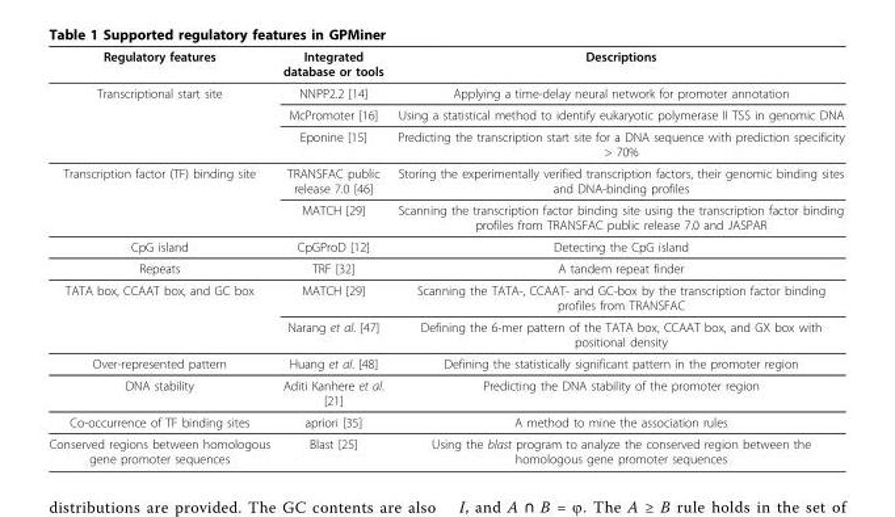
<table><thead><tr><td>Regulatory features</td><td>Integrated database or tools</td><td>Descriptions</td></tr></thead><tbody><tr><td rowspan="3">Transcriptional start site</td><td>NNPP2.2 [14]</td><td>Applying a time-delay neural network for promoter annotation</td></tr><tr><td>McPromoter [16]</td><td>Using a statistical method to identify eukaryotic polymerase II TSS in genomic DNA</td></tr><tr><td>Eponine [15]</td><td>Predicting the transcription start site for a DNA sequence with prediction specificity &gt; 70%</td></tr><tr><td rowspan="2">Transcription factor (TF) binding site</td><td>TRANSFAC public release 7.0 [46]</td><td>Storing the experimentally verified transcription factors, their genomic binding sites and DNA-binding profiles</td></tr><tr><td>MATCH [29]</td><td>Scanning the transcription factor binding site using the transcription factor binding profiles from TRANSFAC public release 7.0 and JASPAR</td></tr><tr><td>CpG island</td><td>CpGProD [12]</td><td>Detecting the CpG island</td></tr><tr><td>Repeats</td><td>TRF [32]</td><td>A tandem repeat finder</td></tr><tr><td rowspan="2">TATA box, CCAAT box, and GC box</td><td>MATCH [29]</td><td>Scanning the TATA-, CCAAT- and GC-box by the transcription factor binding profiles from TRANSFAC</td></tr><tr><td>Narang et al. [47]</td><td>Defining the 6-mer pattern of the TATA box, CCAAT box, and GX box with positional density</td></tr><tr><td>Over-represented pattern</td><td>Huang et al. [48]</td><td>Defining the statistically significant pattern in the promoter region</td></tr><tr><td>DNA stability</td><td>Aditi Kanhere et al. [21]</td><td>Predicting the DNA stability of the promoter region</td></tr><tr><td>Co-occurrence of TF binding sites</td><td>apriori [35]</td><td>A method to mine the association rules</td></tr><tr><td>Conserved regions between homologous gene promoter sequences</td><td>Blast [25]</td><td>Using the blast program to analyze the conserved region between the homologous gene promoter sequences</td></tr></tbody></table>